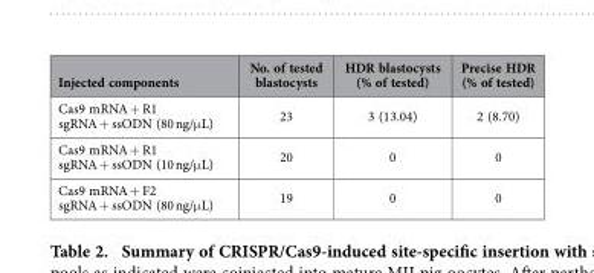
<table><thead><tr><td>Injected components</td><td>No. of tested blastocysts</td><td>HDR blastocysts (% of tested)</td><td>Precise HDR (% of tested)</td></tr></thead><tbody><tr><td>Cas9 mRNA + R1 sgRNA + ssODN (80 ng/μ L)</td><td>23</td><td>3 (13.04)</td><td>2 (8.70)</td></tr><tr><td>Cas9 mRNA + R1 sgRNA + ssODN (10 ng/μ L)</td><td>20</td><td>0</td><td>0</td></tr><tr><td>Cas9 mRNA + F2 sgRNA + ssODN (80 ng/μ L)</td><td>19</td><td>0</td><td>0</td></tr></tbody></table>